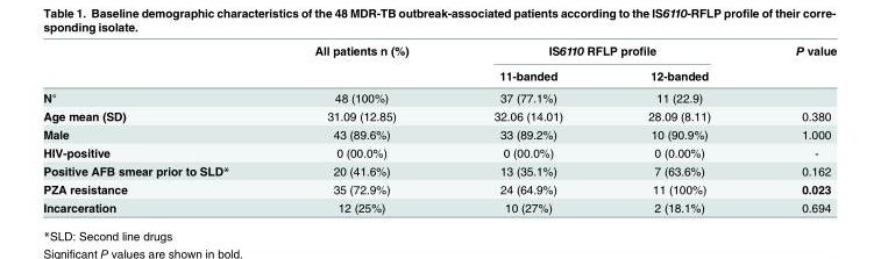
<table><thead><tr><td rowspan="2"></td><td rowspan="2">All patients n (%)</td><td colspan="2">IS6110 RFLP profile</td><td rowspan="2">P value</td></tr><tr><td>11-banded</td><td>12-banded</td></tr></thead><tbody><tr><td>N°</td><td>48 (100%)</td><td>37 (77.1%)</td><td>11 (22.9)</td><td></td></tr><tr><td>Age mean (SD)</td><td>31.09 (12.85)</td><td>32.06 (14.01)</td><td>28.09 (8.11)</td><td>0.380</td></tr><tr><td>Male</td><td>43 (89.6%)</td><td>33 (89.2%)</td><td>10 (90.9%)</td><td>1.000</td></tr><tr><td>HIV-positive</td><td>0 (00.0%)</td><td>0 (00.0%)</td><td>0 (0.00%)</td><td>-</td></tr><tr><td>Positive AFB smear prior to SLD*</td><td>20 (41.6%)</td><td>13 (35.1%)</td><td>7 (63.6%)</td><td>0.162</td></tr><tr><td>PZA resistance</td><td>35 (72.9%)</td><td>24 (64.9%)</td><td>11 (100%)</td><td>0.023</td></tr><tr><td>Incarceration</td><td>12 (25%)</td><td>10 (27%)</td><td>2 (18.1%)</td><td>0.694</td></tr></tbody></table>